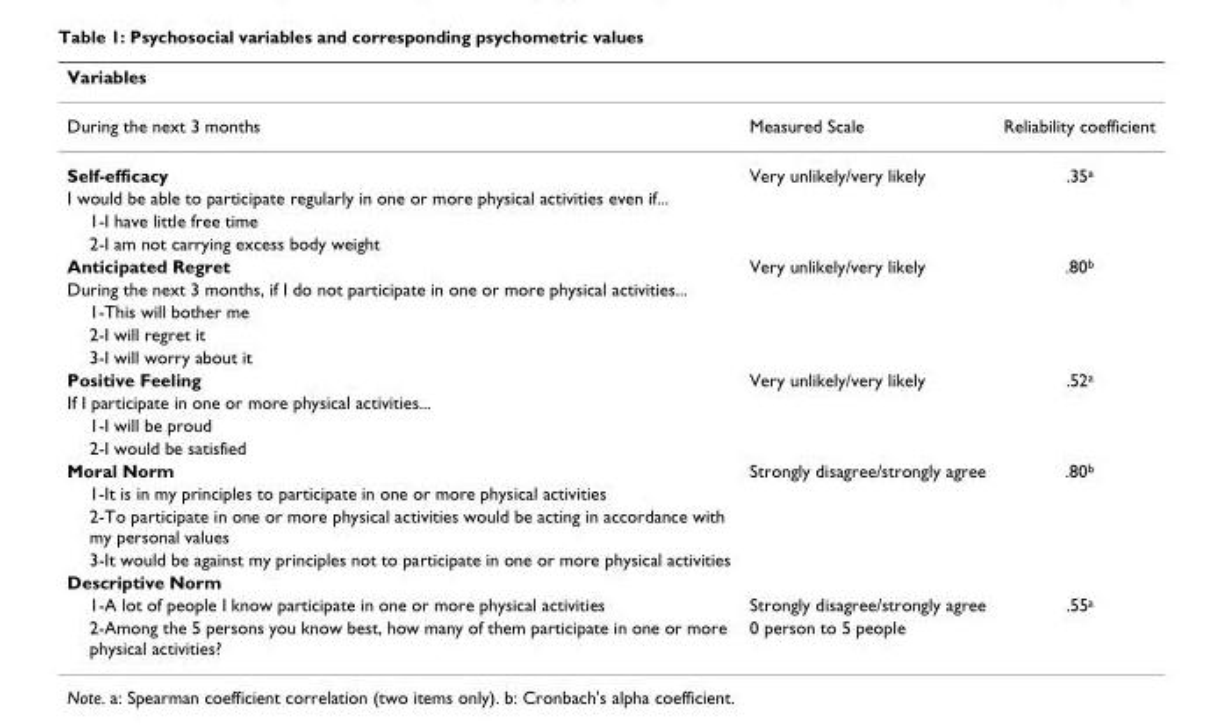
<table><thead><tr><td>Variables</td><td></td><td></td></tr></thead><tbody><tr><td>During the next 3 months</td><td>Measured Scale</td><td>Reliability coefficient</td></tr><tr><td>Self-efficacy</td><td>Very unlikely/very likely</td><td>.35<sup>a</sup></td></tr><tr><td colspan="3">I would be able to participate regularly in one or more physical activities even if...</td></tr><tr><td colspan="3">1-I have little free time</td></tr><tr><td colspan="3">2-I am not carrying excess body weight</td></tr><tr><td>Anticipated Regret</td><td>Very unlikely/very likely</td><td>.80<sup>b</sup></td></tr><tr><td colspan="3">During the next 3 months, if I do not participate in one or more physical activities...</td></tr><tr><td colspan="3">1-This will bother me</td></tr><tr><td colspan="3">2-I will regret it</td></tr><tr><td colspan="3">3-I will worry about it</td></tr><tr><td>Positive Feeling</td><td>Very unlikely/very likely</td><td>.52<sup>a</sup></td></tr><tr><td colspan="3">If I participate in one or more physical activities...</td></tr><tr><td colspan="3">1-I will be proud</td></tr><tr><td colspan="3">2-I would be satisfied</td></tr><tr><td>Moral Norm</td><td>Strongly disagree/strongly agree</td><td>.80<sup>b</sup></td></tr><tr><td colspan="3">1-It is in my principles to participate in one or more physical activities</td></tr><tr><td colspan="3">2-To participate in one or more physical activities would be acting in accordance with my personal values</td></tr><tr><td colspan="3">3-It would be against my principles not to participate in one or more physical activities</td></tr><tr><td colspan="3">Descriptive Norm</td></tr><tr><td>1-A lot of people I know participate in one or more physical activities</td><td>Strongly disagree/strongly agree</td><td>.55<sup>a</sup></td></tr><tr><td>2-Among the 5 persons you know best, how many of them participate in one or more physical activities?</td><td>0 person to 5 people</td><td></td></tr></tbody></table>